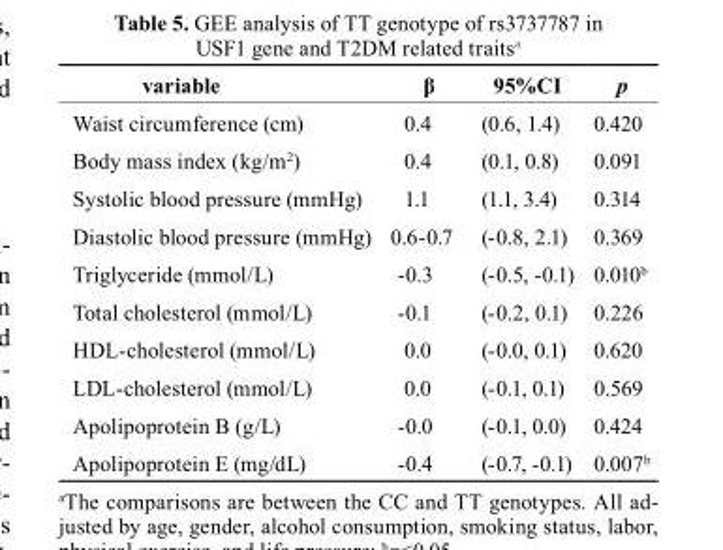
<table><thead><tr><td>variable</td><td>β</td><td>95%cI</td><td>p</td></tr></thead><tbody><tr><td>Waist circumference (cm)</td><td>0.4</td><td>(0.6, 1.4)</td><td>0.420</td></tr><tr><td>Body mass index (kg/m<sup>2</sup>)</td><td>0.4</td><td>(0.1, 0.8)</td><td>0.091</td></tr><tr><td>Systolic blood pressure (mmHg)</td><td>1.1</td><td>(1.1, 3.4)</td><td>0.314</td></tr><tr><td>Diastolic blood pressure (mmHg)</td><td>0.6-0.7</td><td>(-0.8, 2.1)</td><td>0.369</td></tr><tr><td>Triglyceride (mmol/L)</td><td>-0.3</td><td>(-0.5, -0.1)</td><td>0.010<sup>b</sup></td></tr><tr><td>Total cholesterol (mmol/L)</td><td>-0.1</td><td>(-0.2, 0.1)</td><td>0.226</td></tr><tr><td>HDL-cholesterol (mmol/L)</td><td>0.0</td><td>(-0.0, 0.1)</td><td>0.620</td></tr><tr><td>LDL-cholesterol (mmol/L)</td><td>0.0</td><td>(-0.1, 0.1)</td><td>0.569</td></tr><tr><td>Apolipoprotein B (g/L)</td><td>-0.0</td><td>(-0.1, 0.0)</td><td>0.424</td></tr><tr><td>Apolipoprotein E (mg/dL)</td><td>-0.4</td><td>(-0.7, -0.1)</td><td>0.007<sup>b</sup></td></tr></tbody></table>